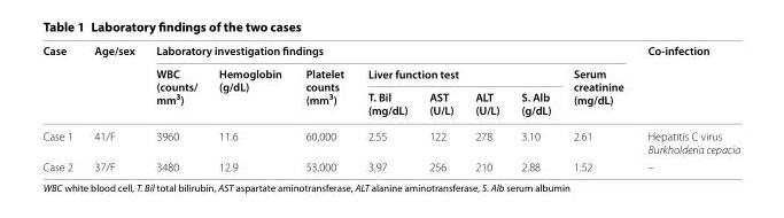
<table><thead><tr><td rowspan="3">Case</td><td rowspan="3">Age/sex</td><td colspan="8">Laboratory investigation findings</td><td rowspan="3">Co-infection</td></tr><tr><td rowspan="2">WBC (counts/ mm<sup>3</sup>)</td><td rowspan="2">Hemoglobin (g/dL)</td><td rowspan="2">Platelet counts (mm<sup>3</sup>)</td><td colspan="4">Liver function test</td><td rowspan="2">Serum creatinine (mg/dL)</td></tr><tr><td>T. Bil (mg/dL)</td><td>AST (U/L)</td><td>ALT (U/L)</td><td>S. Alb (g/dL)</td></tr></thead><tbody><tr><td>Case 1</td><td>41/F</td><td>3960</td><td>11.6</td><td>60,000</td><td>2.55</td><td>122</td><td>278</td><td>3.10</td><td>2.61</td><td>Hepatitis C virus Burkholderia cepacia</td></tr><tr><td>Case 2</td><td>37/F</td><td>3480</td><td>12.9</td><td>53,000</td><td>3.97</td><td>256</td><td>210</td><td>2.88</td><td>1.52</td><td>–</td></tr></tbody></table>